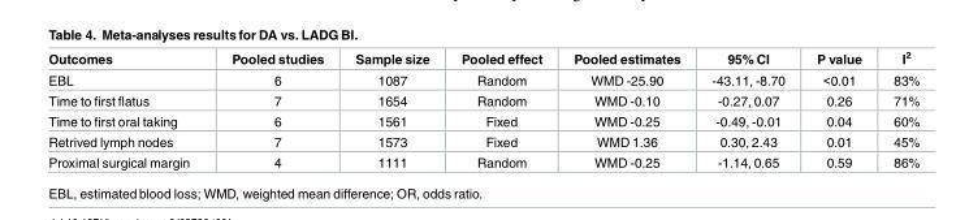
<table><thead><tr><td>Outcomes</td><td>Pooled studies</td><td>Sample size</td><td>Pooled effect</td><td>Pooled estimates</td><td>95% CI</td><td>P value</td><td>I<sup>2</sup></td></tr></thead><tbody><tr><td>EBL</td><td>6</td><td>1087</td><td>Random</td><td>WMD -25.90</td><td>-43.11, -8.70</td><td>&lt;0.01</td><td>83%</td></tr><tr><td>Time to first flatus</td><td>7</td><td>1654</td><td>Random</td><td>WMD -0.10</td><td>-0.27, 0.07</td><td>0.26</td><td>71%</td></tr><tr><td>Time to first oral taking</td><td>6</td><td>1561</td><td>Fixed</td><td>WMD -0.25</td><td>-0.49, -0.01</td><td>0.04</td><td>60%</td></tr><tr><td>Retrived lymph nodes</td><td>7</td><td>1573</td><td>Fixed</td><td>WMD 1.36</td><td>0.30, 2.43</td><td>0.01</td><td>45%</td></tr><tr><td>Proximal surgical margin</td><td>4</td><td>1111</td><td>Random</td><td>WMD -0.25</td><td>-1.14, 0.65</td><td>0.59</td><td>86%</td></tr></tbody></table>